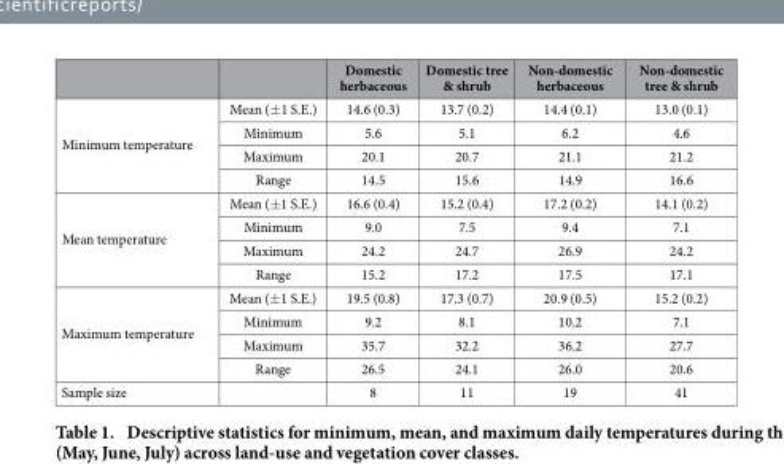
<table><thead><tr><td></td><td></td><td>Domestic herbaceous</td><td>Domestic tree &amp; shrub</td><td>Non-domestic herbaceous</td><td>Non-domestic tree &amp; shrub</td></tr></thead><tbody><tr><td rowspan="4">Minimum temperature</td><td>Mean (± 1 S.E.)</td><td>14.6 (0.3)</td><td>13.7 (0.2)</td><td>14.4 (0.1)</td><td>13.0 (0.1)</td></tr><tr><td>Minimum</td><td>5.6</td><td>5.1</td><td>6.2</td><td>4.6</td></tr><tr><td>Maximum</td><td>20.1</td><td>20.7</td><td>21.1</td><td>21.2</td></tr><tr><td>Range</td><td>14.5</td><td>15.6</td><td>14.9</td><td>16.6</td></tr><tr><td rowspan="4">Mean temperature</td><td>Mean (± 1 S.E.)</td><td>16.6 (0.4)</td><td>15.2 (0.4)</td><td>17.2 (0.2)</td><td>14.1 (0.2)</td></tr><tr><td>Minimum</td><td>9.0</td><td>7.5</td><td>9.4</td><td>7.1</td></tr><tr><td>Maximum</td><td>24.2</td><td>24.7</td><td>26.9</td><td>24.2</td></tr><tr><td>Range</td><td>15.2</td><td>17.2</td><td>17.5</td><td>17.1</td></tr><tr><td rowspan="4">Maximum temperature</td><td>Mean (± 1 S.E.)</td><td>19.5 (0.8)</td><td>17.3 (0.7)</td><td>20.9 (0.5)</td><td>15.2 (0.2)</td></tr><tr><td>Minimum</td><td>9.2</td><td>8.1</td><td>10.2</td><td>7.1</td></tr><tr><td>Maximum</td><td>35.7</td><td>32.2</td><td>36.2</td><td>27.7</td></tr><tr><td>Range</td><td>26.5</td><td>24.1</td><td>26.0</td><td>20.6</td></tr><tr><td>Sample size</td><td></td><td>8</td><td>11</td><td>19</td><td>41</td></tr></tbody></table>